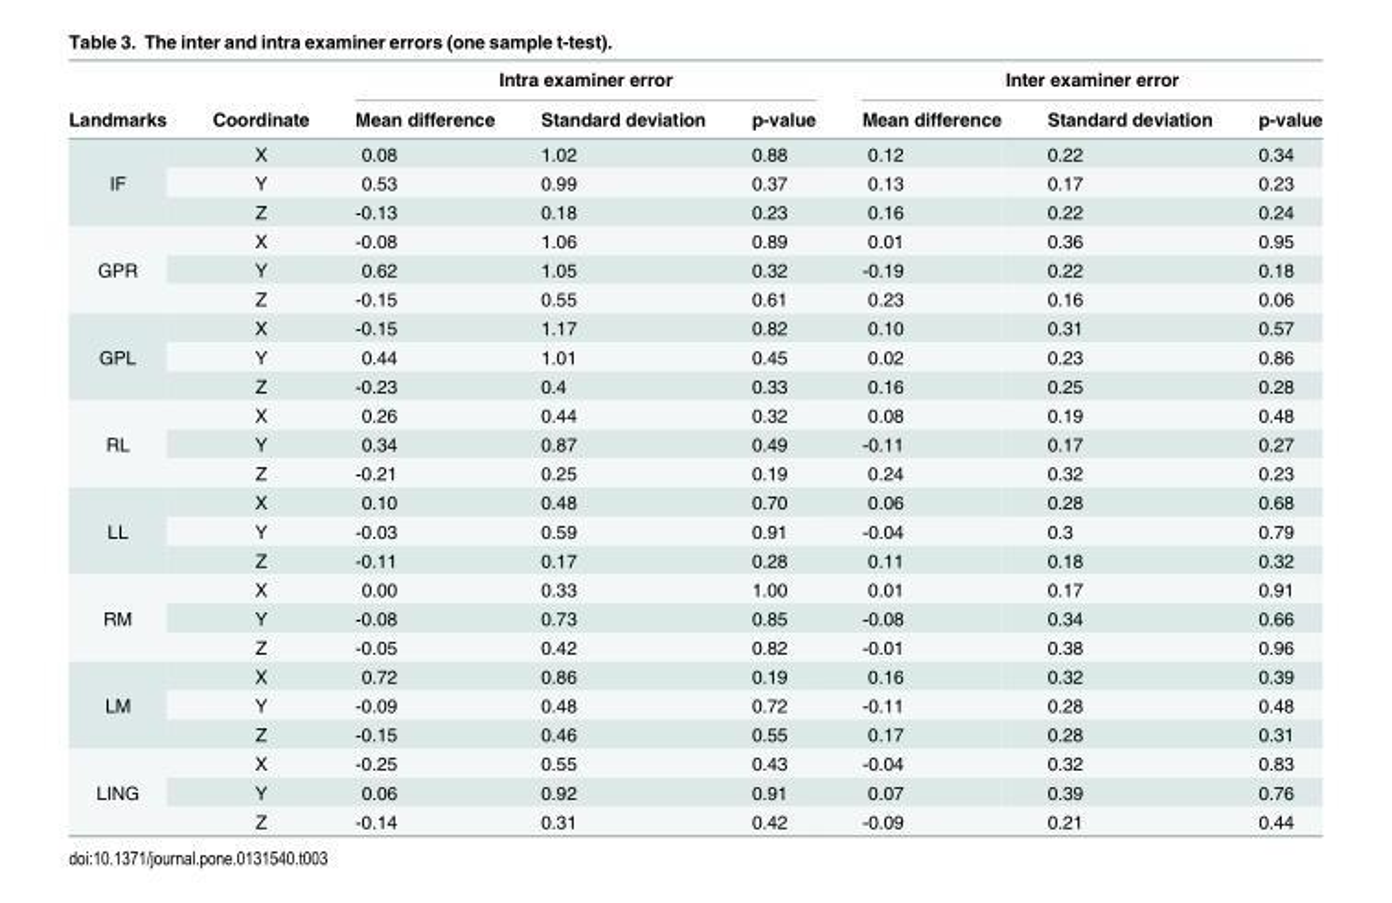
<table><thead><tr><td rowspan="2">Landmarks</td><td rowspan="2">Coordinate</td><td colspan="3">Intra examiner error</td><td colspan="3">Inter examiner error</td></tr><tr><td>Mean difference</td><td>Standard deviation</td><td>p-value</td><td>Mean difference</td><td>Standard deviation</td><td>p-value</td></tr></thead><tbody><tr><td rowspan="3">IF</td><td>X</td><td>0.08</td><td>1.02</td><td>0.88</td><td>0.12</td><td>0.22</td><td>0.34</td></tr><tr><td>Y</td><td>0.53</td><td>0.99</td><td>0.37</td><td>0.13</td><td>0.17</td><td>0.23</td></tr><tr><td>Z</td><td>-0.13</td><td>0.18</td><td>0.23</td><td>0.16</td><td>0.22</td><td>0.24</td></tr><tr><td rowspan="3">GPR</td><td>X</td><td>-0.08</td><td>1.06</td><td>0.89</td><td>0.01</td><td>0.36</td><td>0.95</td></tr><tr><td>Y</td><td>0.62</td><td>1.05</td><td>0.32</td><td>-0.19</td><td>0.22</td><td>0.18</td></tr><tr><td>Z</td><td>-0.15</td><td>0.55</td><td>0.61</td><td>0.23</td><td>0.16</td><td>0.06</td></tr><tr><td rowspan="3">GPL</td><td>X</td><td>-0.15</td><td>1.17</td><td>0.82</td><td>0.10</td><td>0.31</td><td>0.57</td></tr><tr><td>Y</td><td>0.44</td><td>1.01</td><td>0.45</td><td>0.02</td><td>0.23</td><td>0.86</td></tr><tr><td>Z</td><td>-0.23</td><td>0.4</td><td>0.33</td><td>0.16</td><td>0.25</td><td>0.28</td></tr><tr><td rowspan="3">RL</td><td>X</td><td>0.26</td><td>0.44</td><td>0.32</td><td>0.08</td><td>0.19</td><td>0.48</td></tr><tr><td>Y</td><td>0.34</td><td>0.87</td><td>0.49</td><td>-0.11</td><td>0.17</td><td>0.27</td></tr><tr><td>Z</td><td>-0.21</td><td>0.25</td><td>0.19</td><td>0.24</td><td>0.32</td><td>0.23</td></tr><tr><td rowspan="3">LL</td><td>X</td><td>0.10</td><td>0.48</td><td>0.70</td><td>0.06</td><td>0.28</td><td>0.68</td></tr><tr><td>Y</td><td>-0.03</td><td>0.59</td><td>0.91</td><td>-0.04</td><td>0.3</td><td>0.79</td></tr><tr><td>Z</td><td>-0.11</td><td>0.17</td><td>0.28</td><td>0.11</td><td>0.18</td><td>0.32</td></tr><tr><td rowspan="3">RM</td><td>X</td><td>0.00</td><td>0.33</td><td>1.00</td><td>0.01</td><td>0.17</td><td>0.91</td></tr><tr><td>Y</td><td>-0.08</td><td>0.73</td><td>0.85</td><td>-0.08</td><td>0.34</td><td>0.66</td></tr><tr><td>Z</td><td>-0.05</td><td>0.42</td><td>0.82</td><td>-0.01</td><td>0.38</td><td>0.96</td></tr><tr><td rowspan="3">LM</td><td>X</td><td>0.72</td><td>0.86</td><td>0.19</td><td>0.16</td><td>0.32</td><td>0.39</td></tr><tr><td>Y</td><td>-0.09</td><td>0.48</td><td>0.72</td><td>-0.11</td><td>0.28</td><td>0.48</td></tr><tr><td>Z</td><td>-0.15</td><td>0.46</td><td>0.55</td><td>0.17</td><td>0.28</td><td>0.31</td></tr><tr><td rowspan="3">LING</td><td>X</td><td>-0.25</td><td>0.55</td><td>0.43</td><td>-0.04</td><td>0.32</td><td>0.83</td></tr><tr><td>Y</td><td>0.06</td><td>0.92</td><td>0.91</td><td>0.07</td><td>0.39</td><td>0.76</td></tr><tr><td>Z</td><td>-0.14</td><td>0.31</td><td>0.42</td><td>-0.09</td><td>0.21</td><td>0.44</td></tr></tbody></table>